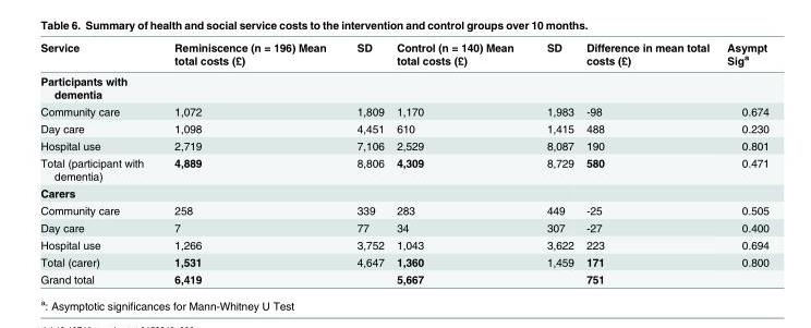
<table><thead><tr><td>Service</td><td>Reminiscence (n = 196) Mean total costs (£)</td><td>SD</td><td>Control (n = 140) Mean total costs (£)</td><td>SD</td><td>Difference in mean total costs (£)</td><td>Asympt Sig<sup>a</sup></td></tr></thead><tbody><tr><td colspan="7">Participants with dementia</td></tr><tr><td>Community care</td><td>1,072</td><td>1,809</td><td>1,170</td><td>1,983</td><td>-98</td><td>0.674</td></tr><tr><td>Day care</td><td>1,098</td><td>4,451</td><td>610</td><td>1,415</td><td>488</td><td>0.230</td></tr><tr><td>Hospital use</td><td>2,719</td><td>7,106</td><td>2,529</td><td>8,087</td><td>190</td><td>0.801</td></tr><tr><td>Total (participant with dementia)</td><td>4,889</td><td>8,806</td><td>4,309</td><td>8,729</td><td>580</td><td>0.471</td></tr><tr><td colspan="7">Carers</td></tr><tr><td>Community care</td><td>258</td><td>339</td><td>283</td><td>449</td><td>-25</td><td>0.505</td></tr><tr><td>Day care</td><td>7</td><td>77</td><td>34</td><td>307</td><td>-27</td><td>0.400</td></tr><tr><td>Hospital use</td><td>1,266</td><td>3,752</td><td>1,043</td><td>3,622</td><td>223</td><td>0.694</td></tr><tr><td>Total (carer)</td><td>1,531</td><td>4,647</td><td>1,360</td><td>1,459</td><td>171</td><td>0.800</td></tr><tr><td>Grand total</td><td>6,419</td><td></td><td>5,667</td><td></td><td>751</td><td></td></tr></tbody></table>